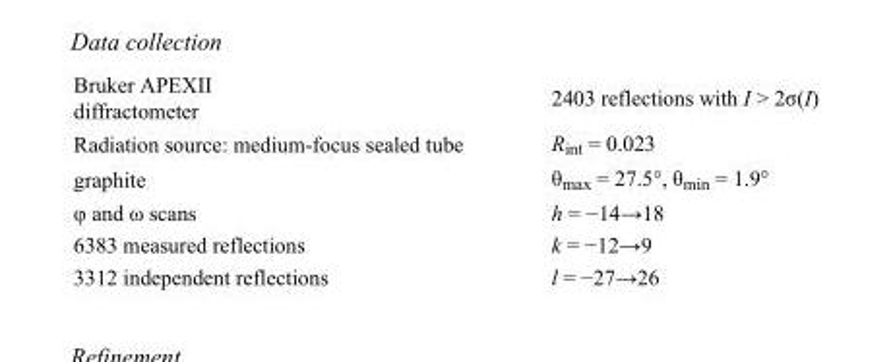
<table><tbody><tr><td>Bruker APEXII diffractometer</td><td>2403 reflections with I &gt; 2σ(I)</td></tr><tr><td>Radiation source: medium-focus sealed tube</td><td>R<sub>int</sub> = 0.023</td></tr><tr><td>graphite</td><td>θ<sub>max</sub> = 27.5°, θ<sub>min</sub> = 1.9°</td></tr><tr><td>φ and ω scans</td><td>h = −14→18</td></tr><tr><td>6383 measured reflections</td><td>k = −12→9</td></tr><tr><td>3312 independent reflections</td><td>l = −27→26</td></tr></tbody></table>